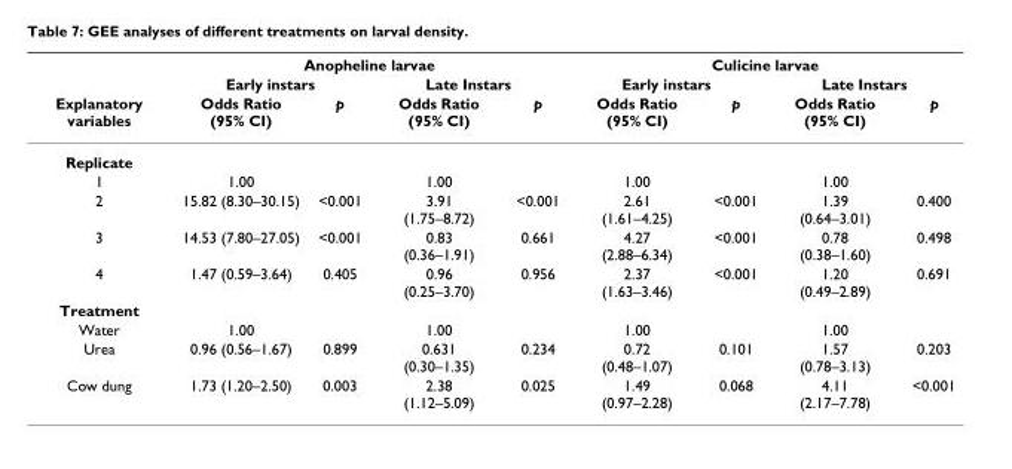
<table><thead><tr><td rowspan="3">Explanatory variables</td><td colspan="4">Anopheline larvae</td><td colspan="4">Culicine larvae</td></tr><tr><td colspan="2">Early instars</td><td colspan="2">Late Instars</td><td colspan="2">Early instars</td><td colspan="2">Late Instars</td></tr><tr><td>Odds Ratio (95% CI)</td><td>p</td><td>Odds Ratio (95% CI)</td><td>p</td><td>Odds Ratio (95% CI)</td><td>p</td><td>Odds Ratio (95% CI)</td><td>p</td></tr></thead><tbody><tr><td colspan="9">Replicate</td></tr><tr><td>1</td><td>1.00</td><td></td><td>1.00</td><td></td><td>1.00</td><td></td><td>1.00</td><td></td></tr><tr><td>2</td><td>15.82 (8.30–30.15)</td><td>&lt;0.001</td><td>3.91 (1.75–8.72)</td><td>&lt;0.001</td><td>2.61 (1.61–4.25)</td><td>&lt;0.001</td><td>1.39 (0.64–3.01)</td><td>0.400</td></tr><tr><td>3</td><td>14.53 (7.80–27.05)</td><td>&lt;0.001</td><td>0.83 (0.36–1.91)</td><td>0.661</td><td>4.27 (2.88–6.34)</td><td>&lt;0.001</td><td>0.78 (0.38–1.60)</td><td>0.498</td></tr><tr><td>4</td><td>1.47 (0.59–3.64)</td><td>0.405</td><td>0.96 (0.25–3.70)</td><td>0.956</td><td>2.37 (1.63–3.46)</td><td>&lt;0.001</td><td>1.20 (0.49–2.89)</td><td>0.691</td></tr><tr><td colspan="9">Treatment</td></tr><tr><td>Water</td><td>1.00</td><td></td><td>1.00</td><td></td><td>1.00</td><td></td><td>1.00</td><td></td></tr><tr><td>Urea</td><td>0.96 (0.56–1.67)</td><td>0.899</td><td>0.631 (0.30–1.35)</td><td>0.234</td><td>0.72 (0.48–1.07)</td><td>0.101</td><td>1.57 (0.78–3.13)</td><td>0.203</td></tr><tr><td>Cow dung</td><td>1.73 (1.20–2.50)</td><td>0.003</td><td>2.38 (1.12–5.09)</td><td>0.025</td><td>1.49 (0.97–2.28)</td><td>0.068</td><td>4.11 (2.17–7.78)</td><td>&lt;0.001</td></tr></tbody></table>